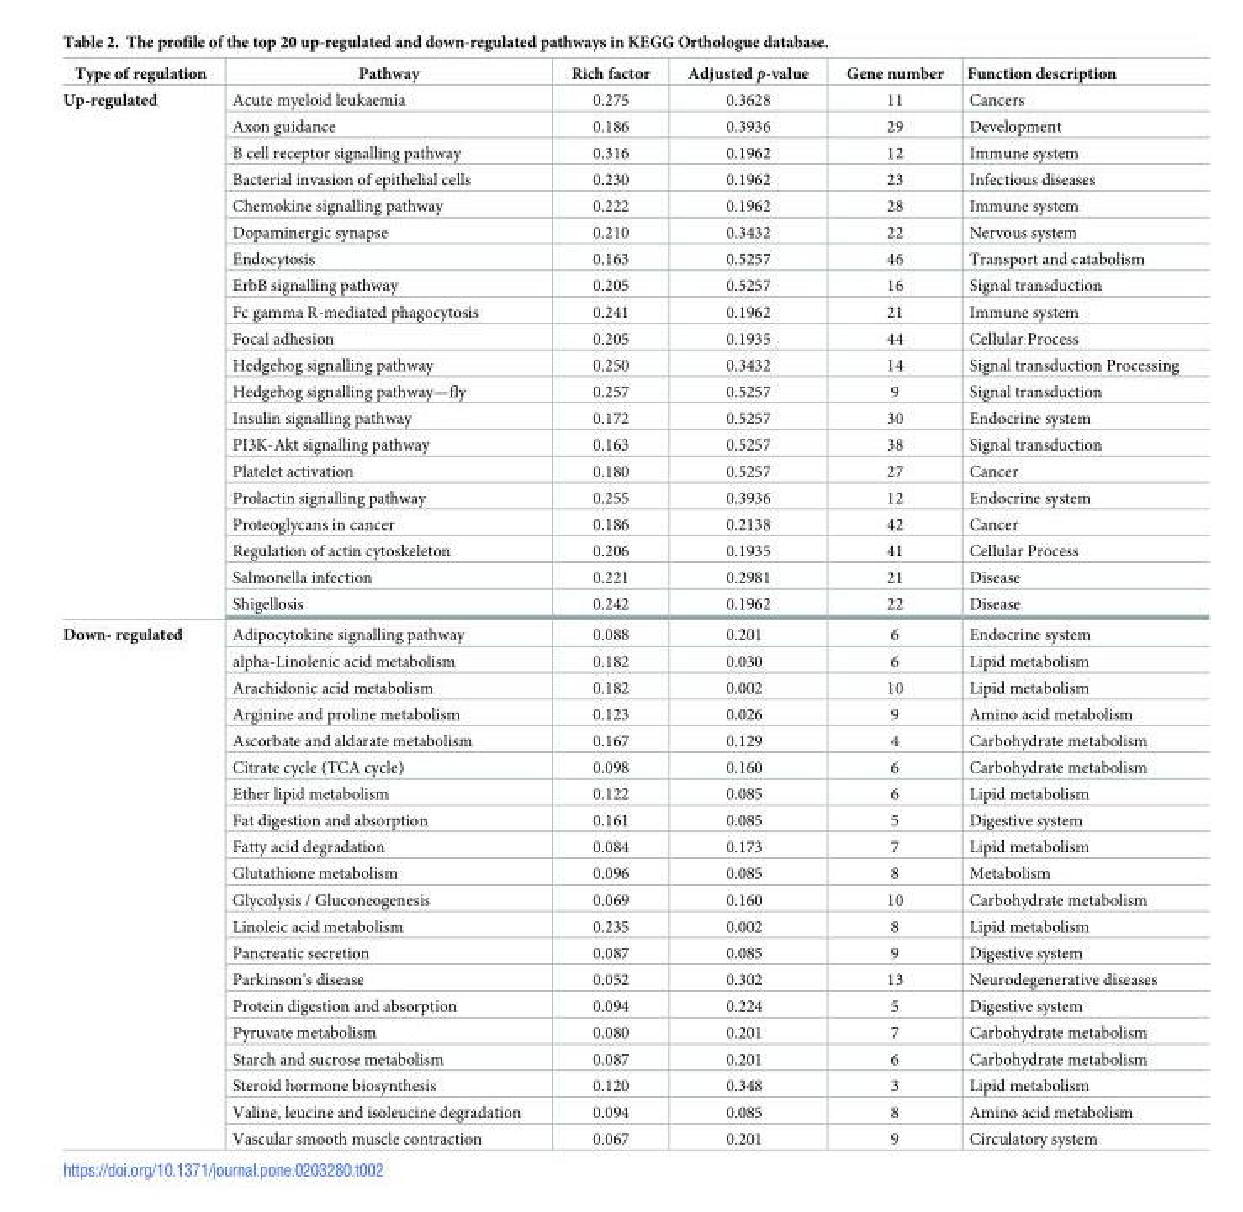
<table><thead><tr><td>Type of regulation</td><td>Pathway</td><td>Rich factor</td><td>Adjusted p-value</td><td>Gene number</td><td>Function description</td></tr></thead><tbody><tr><td rowspan="20">Up-regulated</td><td>Acute myeloid leukaemia</td><td>0.275</td><td>0.3628</td><td>11</td><td>Cancers</td></tr><tr><td>Axon guidance</td><td>0.186</td><td>0.3936</td><td>29</td><td>Development</td></tr><tr><td>B cell receptor signalling pathway</td><td>0.316</td><td>0.1962</td><td>12</td><td>Immune system</td></tr><tr><td>Bacterial invasion of epithelial cells</td><td>0.230</td><td>0.1962</td><td>23</td><td>Infectious diseases</td></tr><tr><td>Chemokine signalling pathway</td><td>0.222</td><td>0.1962</td><td>28</td><td>Immune system</td></tr><tr><td>Dopaminergic synapse</td><td>0.210</td><td>0.3432</td><td>22</td><td>Nervous system</td></tr><tr><td>Endocytosis</td><td>0.163</td><td>0.5257</td><td>46</td><td>Transport and catabolism</td></tr><tr><td>ErbB signalling pathway</td><td>0.205</td><td>0.5257</td><td>16</td><td>Signal transduction</td></tr><tr><td>Fc gamma R-mediated phagocytosis</td><td>0.241</td><td>0.1962</td><td>21</td><td>Immune system</td></tr><tr><td>Focal adhesion</td><td>0.205</td><td>0.1935</td><td>44</td><td>Cellular Process</td></tr><tr><td>Hedgehog signalling pathway</td><td>0.250</td><td>0.3432</td><td>14</td><td>Signal transduction Processing</td></tr><tr><td>Hedgehog signalling pathway—fly</td><td>0.257</td><td>0.5257</td><td>9</td><td>Signal transduction</td></tr><tr><td>Insulin signalling pathway</td><td>0.172</td><td>0.5257</td><td>30</td><td>Endocrine system</td></tr><tr><td>PI3K-Akt signalling pathway</td><td>0.163</td><td>0.5257</td><td>38</td><td>Signal transduction</td></tr><tr><td>Platelet activation</td><td>0.180</td><td>0.5257</td><td>27</td><td>Cancer</td></tr><tr><td>Prolactin signalling pathway</td><td>0.255</td><td>0.3936</td><td>12</td><td>Endocrine system</td></tr><tr><td>Proteoglycans in cancer</td><td>0.186</td><td>0.2138</td><td>42</td><td>Cancer</td></tr><tr><td>Regulation of actin cytoskeleton</td><td>0.206</td><td>0.1935</td><td>41</td><td>Cellular Process</td></tr><tr><td>Salmonella infection</td><td>0.221</td><td>0.2981</td><td>21</td><td>Disease</td></tr><tr><td>Shigellosis</td><td>0.242</td><td>0.1962</td><td>22</td><td>Disease</td></tr><tr><td rowspan="20">Down- regulated</td><td>Adipocytokine signalling pathway</td><td>0.088</td><td>0.201</td><td>6</td><td>Endocrine system</td></tr><tr><td>alpha-Linolenic acid metabolism</td><td>0.182</td><td>0.030</td><td>6</td><td>Lipid metabolism</td></tr><tr><td>Arachidonic acid metabolism</td><td>0.182</td><td>0.002</td><td>10</td><td>Lipid metabolism</td></tr><tr><td>Arginine and proline metabolism</td><td>0.123</td><td>0.026</td><td>9</td><td>Amino acid metabolism</td></tr><tr><td>Ascorbate and aldarate metabolism</td><td>0.167</td><td>0.129</td><td>4</td><td>Carbohydrate metabolism</td></tr><tr><td>Citrate cycle (TCA cycle)</td><td>0.098</td><td>0.160</td><td>6</td><td>Carbohydrate metabolism</td></tr><tr><td>Ether lipid metabolism</td><td>0.122</td><td>0.085</td><td>6</td><td>Lipid metabolism</td></tr><tr><td>Fat digestion and absorption</td><td>0.161</td><td>0.085</td><td>5</td><td>Digestive system</td></tr><tr><td>Fatty acid degradation</td><td>0.084</td><td>0.173</td><td>7</td><td>Lipid metabolism</td></tr><tr><td>Glutathione metabolism</td><td>0.096</td><td>0.085</td><td>8</td><td>Metabolism</td></tr><tr><td>Glycolysis / Gluconeogenesis</td><td>0.069</td><td>0.160</td><td>10</td><td>Carbohydrate metabolism</td></tr><tr><td>Linoleic acid metabolism</td><td>0.235</td><td>0.002</td><td>8</td><td>Lipid metabolism</td></tr><tr><td>Pancreatic secretion</td><td>0.087</td><td>0.085</td><td>9</td><td>Digestive system</td></tr><tr><td>Parkinson’s disease</td><td>0.052</td><td>0.302</td><td>13</td><td>Neurodegenerative diseases</td></tr><tr><td>Protein digestion and absorption</td><td>0.094</td><td>0.224</td><td>5</td><td>Digestive system</td></tr><tr><td>Pyruvate metabolism</td><td>0.080</td><td>0.201</td><td>7</td><td>Carbohydrate metabolism</td></tr><tr><td>Starch and sucrose metabolism</td><td>0.087</td><td>0.201</td><td>6</td><td>Carbohydrate metabolism</td></tr><tr><td>Steroid hormone biosynthesis</td><td>0.120</td><td>0.348</td><td>3</td><td>Lipid metabolism</td></tr><tr><td>Valine, leucine and isoleucine degradation</td><td>0.094</td><td>0.085</td><td>8</td><td>Amino acid metabolism</td></tr><tr><td>Vascular smooth muscle contraction</td><td>0.067</td><td>0.201</td><td>9</td><td>Circulatory system</td></tr></tbody></table>